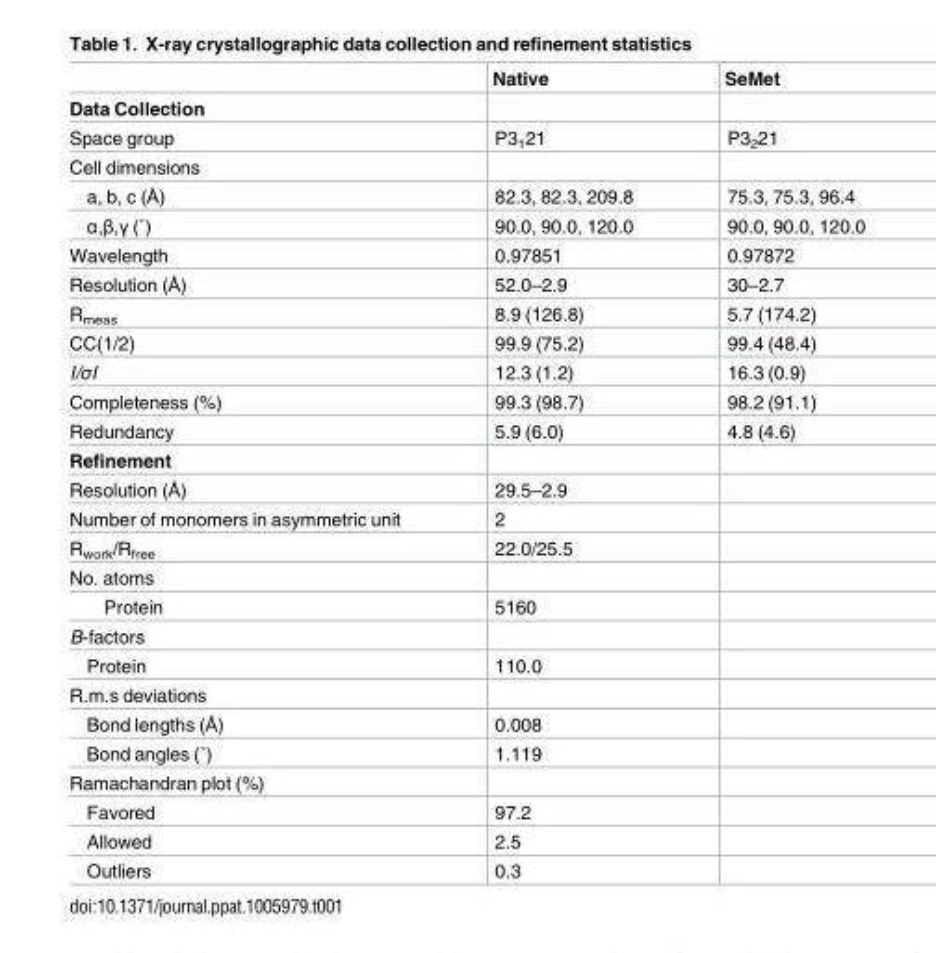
<table><thead><tr><td></td><td>Native</td><td>SeMet</td></tr></thead><tbody><tr><td colspan="3">Data Collection</td></tr><tr><td>Space group</td><td>P3<sub>1</sub>21</td><td>P3<sub>2</sub>21</td></tr><tr><td colspan="3">Cell dimensions</td></tr><tr><td>a, b, c (Å)</td><td>82.3, 82.3, 209.8</td><td>75.3, 75.3, 96.4</td></tr><tr><td>α,β,γ (˚)</td><td>90.0, 90.0, 120.0</td><td>90.0, 90.0, 120.0</td></tr><tr><td>Wavelength</td><td>0.97851</td><td>0.97872</td></tr><tr><td>Resolution (Å)</td><td>52.0–2.9</td><td>30–2.7</td></tr><tr><td>R<sub>meas</sub></td><td>8.9 (126.8)</td><td>5.7 (174.2)</td></tr><tr><td>CC(1/2)</td><td>99.9 (75.2)</td><td>99.4 (48.4)</td></tr><tr><td>I/σI</td><td>12.3 (1.2)</td><td>16.3 (0.9)</td></tr><tr><td>Completeness (%)</td><td>99.3 (98.7)</td><td>98.2 (91.1)</td></tr><tr><td>Redundancy</td><td>5.9 (6.0)</td><td>4.8 (4.6)</td></tr><tr><td colspan="3">Refinement</td></tr><tr><td>Resolution (Å)</td><td>29.5–2.9</td><td></td></tr><tr><td>Number of monomers in asymmetric unit</td><td>2</td><td></td></tr><tr><td>R<sub>work</sub>/R<sub>free</sub></td><td>22.0/25.5</td><td></td></tr><tr><td colspan="3">No. atoms</td></tr><tr><td>Protein</td><td>5160</td><td></td></tr><tr><td colspan="3">B-factors</td></tr><tr><td>Protein</td><td>110.0</td><td></td></tr><tr><td colspan="3">R.m.s deviations</td></tr><tr><td>Bond lengths (Å)</td><td>0.008</td><td></td></tr><tr><td>Bond angles (˚)</td><td>1.119</td><td></td></tr><tr><td colspan="3">Ramachandran plot (%)</td></tr><tr><td>Favored</td><td>97.2</td><td></td></tr><tr><td>Allowed</td><td>2.5</td><td></td></tr><tr><td>Outliers</td><td>0.3</td><td></td></tr></tbody></table>